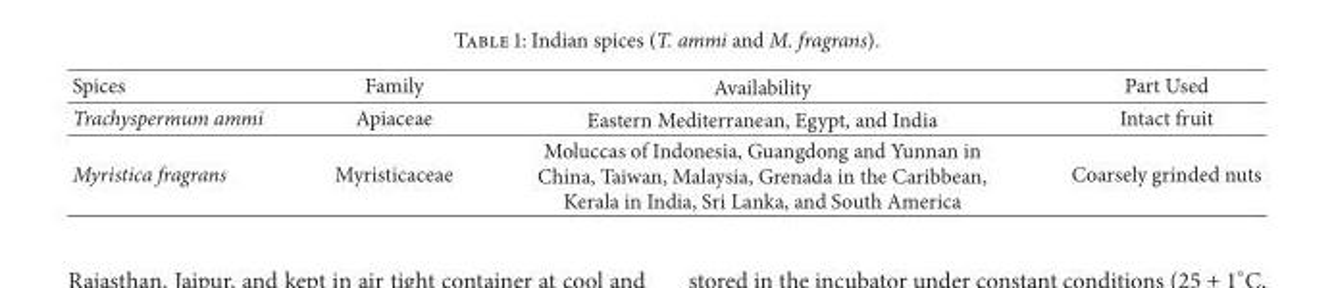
<table><thead><tr><td>Spices</td><td>Family</td><td>Availability</td><td>Part Used</td></tr></thead><tbody><tr><td>Trachyspermum ammi</td><td>Apiaceae</td><td>Eastern Mediterranean, Egypt, and India</td><td>Intact fruit</td></tr><tr><td>Myristica fragrans</td><td>Myristicaceae</td><td>Moluccas of Indonesia, Guangdong and Yunnan in China, Taiwan, Malaysia, Grenada in the Caribbean, Kerala in India, Sri Lanka, and South America</td><td>Coarsely grinded nuts</td></tr></tbody></table>